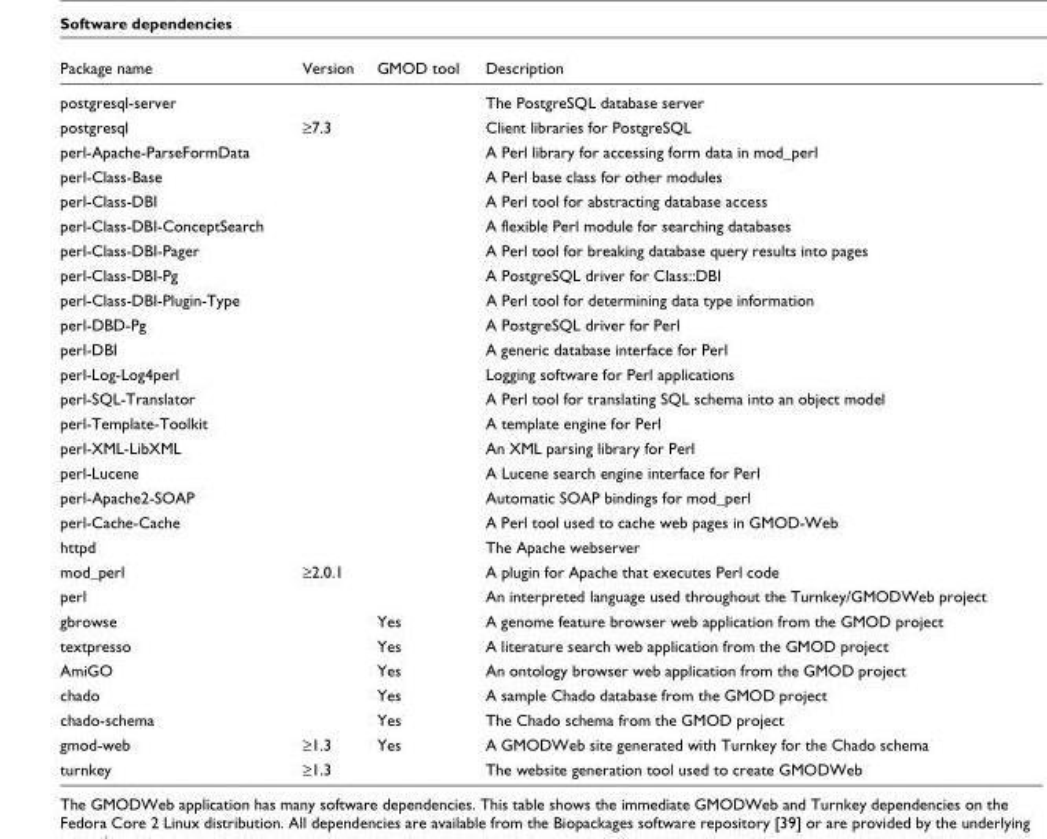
<table><thead><tr><td>Package name</td><td>Version</td><td>GMOD tool</td><td>Description</td></tr></thead><tbody><tr><td>postgresql-server</td><td></td><td></td><td>The PostgreSQL database server</td></tr><tr><td>postgresql</td><td>≥7.3</td><td></td><td>Client libraries for PostgreSQL</td></tr><tr><td>perl-Apache-ParseFormData</td><td></td><td></td><td>A Perl library for accessing form data in mod_perl</td></tr><tr><td>perl-Class-Base</td><td></td><td></td><td>A Perl base class for other modules</td></tr><tr><td>perl-Class-DBI</td><td></td><td></td><td>A Perl tool for abstracting database access</td></tr><tr><td>perl-Class-DBI-ConceptSearch</td><td></td><td></td><td>A flexible Perl module for searching databases</td></tr><tr><td>perl-Class-DBI-Pager</td><td></td><td></td><td>A Perl tool for breaking database query results into pages</td></tr><tr><td>perl-Class-DBI-Pg</td><td></td><td></td><td>A PostgreSQL driver for Class::DBI</td></tr><tr><td>perl-Class-DBI-Plugin-Type</td><td></td><td></td><td>A Perl tool for determining data type information</td></tr><tr><td>perl-DBD-Pg</td><td></td><td></td><td>A PostgreSQL driver for Perl</td></tr><tr><td>perl-DBI</td><td></td><td></td><td>A generic database interface for Perl</td></tr><tr><td>perl-Log-Log4perl</td><td></td><td></td><td>Logging software for Perl applications</td></tr><tr><td>perl-SQL-Translator</td><td></td><td></td><td>A Perl tool for translating SQL schema into an object model</td></tr><tr><td>perl-Template-Toolkit</td><td></td><td></td><td>A template engine for Perl</td></tr><tr><td>perl-XML-LibXML</td><td></td><td></td><td>An XML parsing library for Perl</td></tr><tr><td>perl-Lucene</td><td></td><td></td><td>A Lucene search engine interface for Perl</td></tr><tr><td>perl-Apache2-SOAP</td><td></td><td></td><td>Automatic SOAP bindings for mod_perl</td></tr><tr><td>perl-Cache-Cache</td><td></td><td></td><td>A Perl tool used to cache web pages in GMOD-Web</td></tr><tr><td>httpd</td><td></td><td></td><td>The Apache webserver</td></tr><tr><td>mod_perl</td><td>≥2.0.1</td><td></td><td>A plugin for Apache that executes Perl code</td></tr><tr><td>perl</td><td></td><td></td><td>An interpreted language used throughout the Turnkey/GMODWeb project</td></tr><tr><td>gbrowse</td><td></td><td>Yes</td><td>A genome feature browser web application from the GMOD project</td></tr><tr><td>textpresso</td><td></td><td>Yes</td><td>A literature search web application from the GMOD project</td></tr><tr><td>AmiGO</td><td></td><td>Yes</td><td>An ontology browser web application from the GMOD project</td></tr><tr><td>chado</td><td></td><td>Yes</td><td>A sample Chado database from the GMOD project</td></tr><tr><td>chado-schema</td><td></td><td>Yes</td><td>The Chado schema from the GMOD project</td></tr><tr><td>gmod-web</td><td>≥1.3</td><td>Yes</td><td>A GMODWeb site generated with Turnkey for the Chado schema</td></tr><tr><td>turnkey</td><td>≥1.3</td><td></td><td>The website generation tool used to create GMODWeb</td></tr></tbody></table>